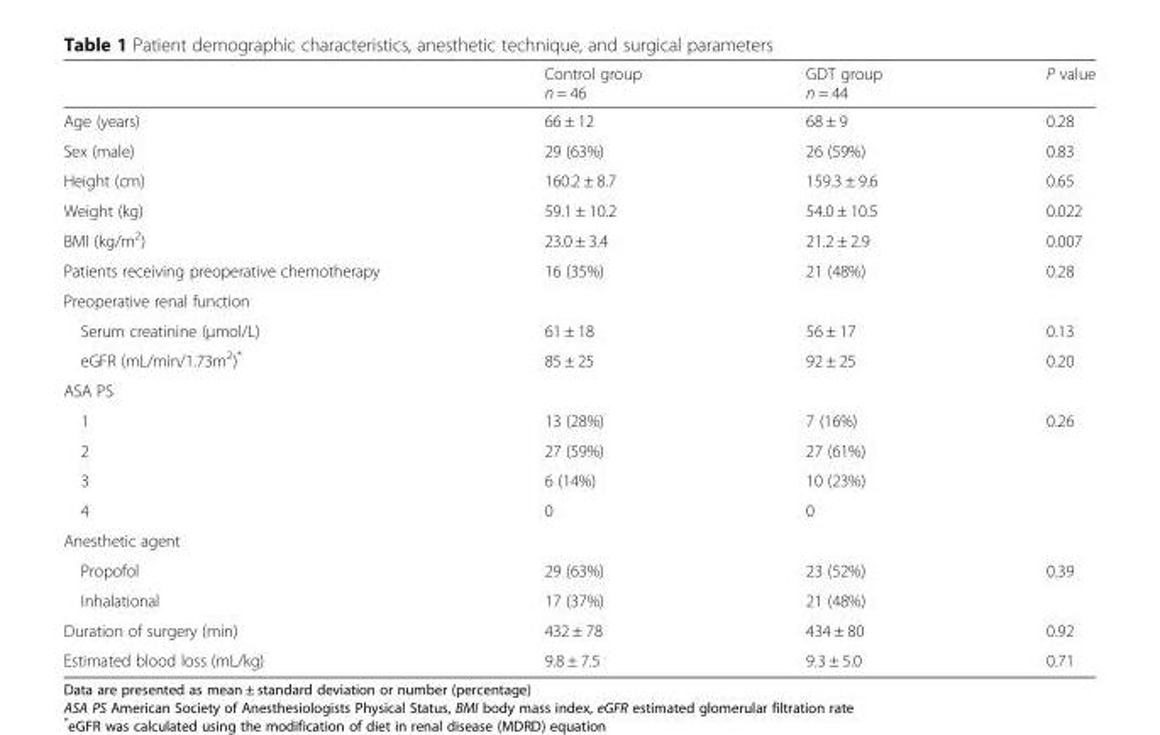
<table><thead><tr><td></td><td>Control group n = 46</td><td>GDT group n = 44</td><td>P value</td></tr></thead><tbody><tr><td>Age (years)</td><td>66 ± 12</td><td>68 ± 9</td><td>0.28</td></tr><tr><td>Sex (male)</td><td>29 (63%)</td><td>26 (59%)</td><td>0.83</td></tr><tr><td>Height (cm)</td><td>160.2 ± 8.7</td><td>159.3 ± 9.6</td><td>0.65</td></tr><tr><td>Weight (kg)</td><td>59.1 ± 10.2</td><td>54.0 ± 10.5</td><td>0.022</td></tr><tr><td>BMI (kg/m<sup>2</sup>)</td><td>23.0 ± 3.4</td><td>21.2 ± 2.9</td><td>0.007</td></tr><tr><td>Patients receiving preoperative chemotherapy</td><td>16 (35%)</td><td>21 (48%)</td><td>0.28</td></tr><tr><td colspan="4">Preoperative renal function</td></tr><tr><td>Serum creatinine (μmol/L)</td><td>61 ± 18</td><td>56 ± 17</td><td>0.13</td></tr><tr><td>eGFR (mL/min/1.73m<sup>2</sup>)*</td><td>85 ± 25</td><td>92 ± 25</td><td>0.20</td></tr><tr><td colspan="4">ASA PS</td></tr><tr><td>1</td><td>13 (28%)</td><td>7 (16%)</td><td rowspan="4">0.26</td></tr><tr><td>2</td><td>27 (59%)</td><td>27 (61%)</td></tr><tr><td>3</td><td>6 (14%)</td><td>10 (23%)</td></tr><tr><td>4</td><td>0</td><td>0</td></tr><tr><td colspan="4">Anesthetic agent</td></tr><tr><td>Propofol</td><td>29 (63%)</td><td>23 (52%)</td><td rowspan="2">0.39</td></tr><tr><td>Inhalational</td><td>17 (37%)</td><td>21 (48%)</td></tr><tr><td>Duration of surgery (min)</td><td>432 ± 78</td><td>434 ± 80</td><td>0.92</td></tr><tr><td>Estimated blood loss (mL/kg)</td><td>9.8 ± 7.5</td><td>9.3 ± 5.0</td><td>0.71</td></tr></tbody></table>